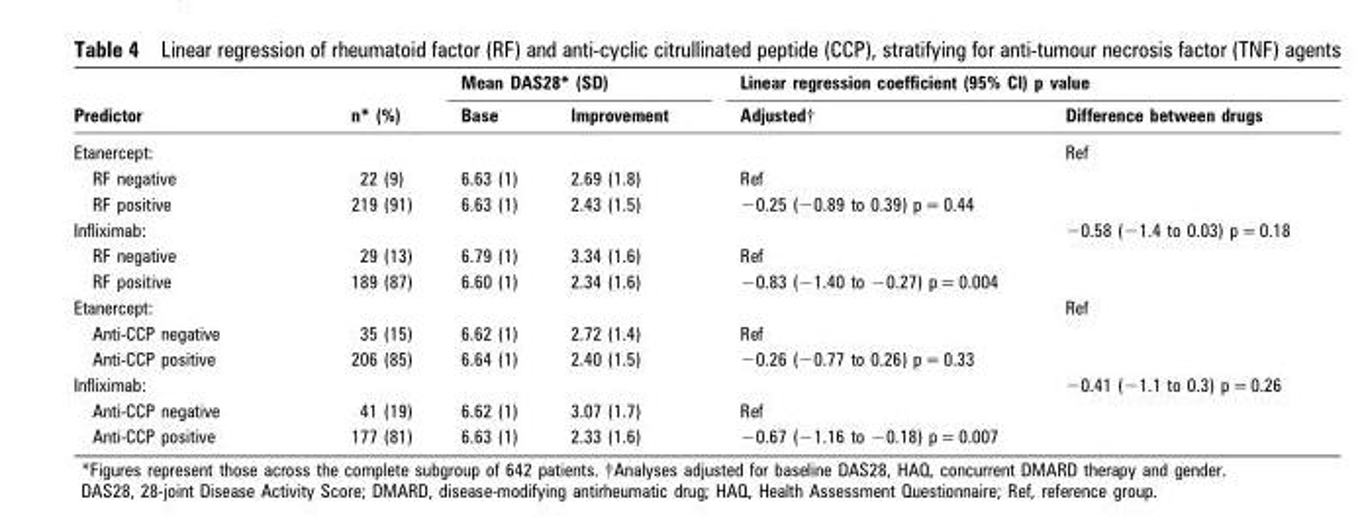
<table><thead><tr><td rowspan="2">Predictor</td><td rowspan="2">n* (%)</td><td colspan="2">Mean DAS28* (SD)</td><td colspan="2">Linear regression coefficient (95% CI) p value</td></tr><tr><td>Base</td><td>Improvement</td><td>Adjusted†</td><td>Difference between drugs</td></tr></thead><tbody><tr><td colspan="5">Etanercept:</td><td rowspan="3">Ref</td></tr><tr><td>RF negative</td><td>22 (9)</td><td>6.63 (1)</td><td>2.69 (1.8)</td><td>Ref</td></tr><tr><td>RF positive</td><td>219 (91)</td><td>6.63 (1)</td><td>2.43 (1.5)</td><td>−0.25 (−0.89 to 0.39) p = 0.44</td></tr><tr><td colspan="5">Infliximab:</td><td rowspan="3">−0.58 (−1.4 to 0.03) p = 0.18</td></tr><tr><td>RF negative</td><td>29 (13)</td><td>6.79 (1)</td><td>3.34 (1.6)</td><td>Ref</td></tr><tr><td>RF positive</td><td>189 (87)</td><td>6.60 (1)</td><td>2.34 (1.6)</td><td>−0.83 (−1.40 to −0.27) p = 0.004</td></tr><tr><td colspan="5">Etanercept:</td><td rowspan="3">Ref</td></tr><tr><td>Anti-CCP negative</td><td>35 (15)</td><td>6.62 (1)</td><td>2.72 (1.4)</td><td>Ref</td></tr><tr><td>Anti-CCP positive</td><td>206 (85)</td><td>6.64 (1)</td><td>2.40 (1.5)</td><td>−0.26 (−0.77 to 0.26) p = 0.33</td></tr><tr><td colspan="5">Infliximab:</td><td rowspan="3">−0.41 (−1.1 to 0.3) p = 0.26</td></tr><tr><td>Anti-CCP negative</td><td>41 (19)</td><td>6.62 (1)</td><td>3.07 (1.7)</td><td>Ref</td></tr><tr><td>Anti-CCP positive</td><td>177 (81)</td><td>6.63 (1)</td><td>2.33 (1.6)</td><td>−0.67 (−1.16 to −0.18) p = 0.007</td></tr></tbody></table>